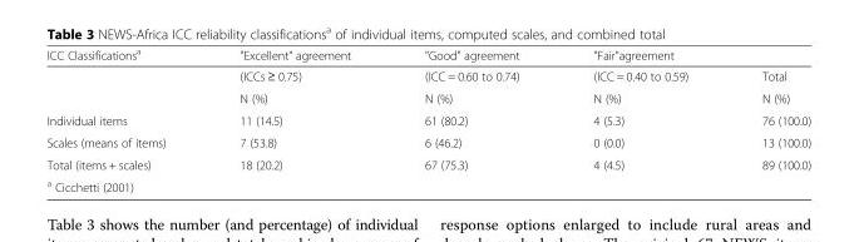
<table><thead><tr><td>ICC Classifications<sup>a</sup></td><td>&quot;Excellent&quot; agreement</td><td>&quot;Good&quot; agreement</td><td>&quot;Fair&quot;agreement</td><td></td></tr></thead><tbody><tr><td></td><td>(ICCs ≥ 0.75)</td><td>(ICC = 0.60 to 0.74)</td><td>(ICC = 0.40 to 0.59)</td><td>Total</td></tr><tr><td></td><td>N (%)</td><td>N (%)</td><td>N (%)</td><td>N (%)</td></tr><tr><td>Individual items</td><td>11 (14.5)</td><td>61 (80.2)</td><td>4 (5.3)</td><td>76 (100.0)</td></tr><tr><td>Scales (means of items)</td><td>7 (53.8)</td><td>6 (46.2)</td><td>0 (0.0)</td><td>13 (100.0)</td></tr><tr><td>Total (items + scales)</td><td>18 (20.2)</td><td>67 (75.3)</td><td>4 (4.5)</td><td>89 (100.0)</td></tr><tr><td><sup>a</sup> Cicchetti (2001)</td><td></td><td></td><td></td><td></td></tr></tbody></table>